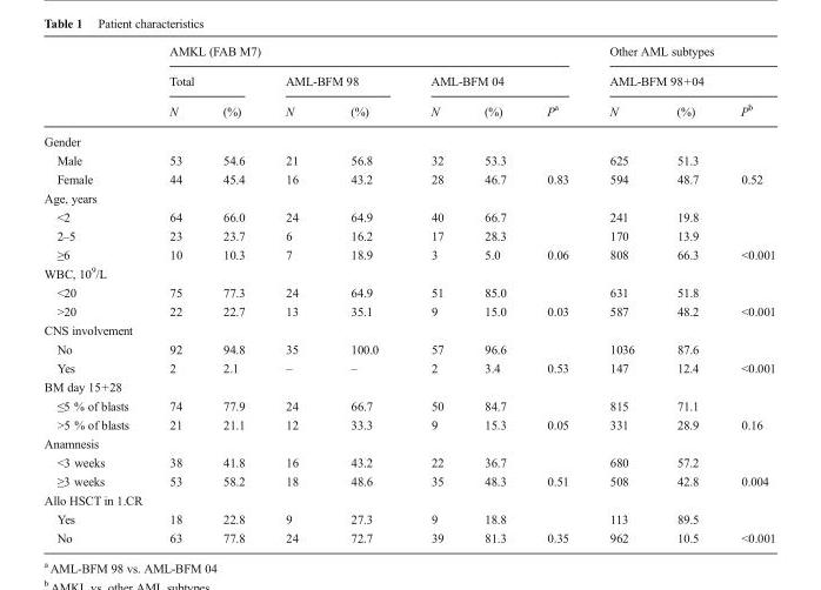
<table><thead><tr><td rowspan="3"></td><td colspan="7">AMKL (FAB M7)</td><td rowspan="2" colspan="3">Other AML subtypes AML-BFM 98+04</td></tr><tr><td colspan="2">Total</td><td colspan="2">AML-BFM 98</td><td colspan="3">AML-BFM 04</td></tr><tr><td>N</td><td>(%)</td><td>N</td><td>(%)</td><td>N</td><td>(%)</td><td>P<sup>a</sup></td><td>N</td><td>(%)</td><td>P<sup>b</sup></td></tr></thead><tbody><tr><td colspan="11">Gender</td></tr><tr><td>Male</td><td>53</td><td>54.6</td><td>21</td><td>56.8</td><td>32</td><td>53.3</td><td></td><td>625</td><td>51.3</td><td></td></tr><tr><td>Female</td><td>44</td><td>45.4</td><td>16</td><td>43.2</td><td>28</td><td>46.7</td><td>0.83</td><td>594</td><td>48.7</td><td>0.52</td></tr><tr><td colspan="11">Age, years</td></tr><tr><td>&lt;2</td><td>64</td><td>66.0</td><td>24</td><td>64.9</td><td>40</td><td>66.7</td><td></td><td>241</td><td>19.8</td><td></td></tr><tr><td>2–5</td><td>23</td><td>23.7</td><td>6</td><td>16.2</td><td>17</td><td>28.3</td><td></td><td>170</td><td>13.9</td><td></td></tr><tr><td>≥6</td><td>10</td><td>10.3</td><td>7</td><td>18.9</td><td>3</td><td>5.0</td><td>0.06</td><td>808</td><td>66.3</td><td>&lt;0.001</td></tr><tr><td colspan="11">WBC, 10<sup>9</sup>/L</td></tr><tr><td>&lt;20</td><td>75</td><td>77.3</td><td>24</td><td>64.9</td><td>51</td><td>85.0</td><td></td><td>631</td><td>51.8</td><td></td></tr><tr><td>&gt;20</td><td>22</td><td>22.7</td><td>13</td><td>35.1</td><td>9</td><td>15.0</td><td>0.03</td><td>587</td><td>48.2</td><td>&lt;0.001</td></tr><tr><td colspan="11">CNS involvement</td></tr><tr><td>No</td><td>92</td><td>94.8</td><td>35</td><td>100.0</td><td>57</td><td>96.6</td><td></td><td>1036</td><td>87.6</td><td></td></tr><tr><td>Yes</td><td>2</td><td>2.1</td><td>–</td><td>–</td><td>2</td><td>3.4</td><td>0.53</td><td>147</td><td>12.4</td><td>&lt;0.001</td></tr><tr><td colspan="11">BM day 15+28</td></tr><tr><td>≤5 % of blasts</td><td>74</td><td>77.9</td><td>24</td><td>66.7</td><td>50</td><td>84.7</td><td></td><td>815</td><td>71.1</td><td></td></tr><tr><td>&gt;5 % of blasts</td><td>21</td><td>21.1</td><td>12</td><td>33.3</td><td>9</td><td>15.3</td><td>0.05</td><td>331</td><td>28.9</td><td>0.16</td></tr><tr><td colspan="11">Anamnesis</td></tr><tr><td>&lt;3 weeks</td><td>38</td><td>41.8</td><td>16</td><td>43.2</td><td>22</td><td>36.7</td><td></td><td>680</td><td>57.2</td><td></td></tr><tr><td>≥3 weeks</td><td>53</td><td>58.2</td><td>18</td><td>48.6</td><td>35</td><td>48.3</td><td>0.51</td><td>508</td><td>42.8</td><td>0.004</td></tr><tr><td colspan="11">Allo HSCT in 1.CR</td></tr><tr><td>Yes</td><td>18</td><td>22.8</td><td>9</td><td>27.3</td><td>9</td><td>18.8</td><td></td><td>113</td><td>89.5</td><td></td></tr><tr><td>No</td><td>63</td><td>77.8</td><td>24</td><td>72.7</td><td>39</td><td>81.3</td><td>0.35</td><td>962</td><td>10.5</td><td>&lt;0.001</td></tr></tbody></table>